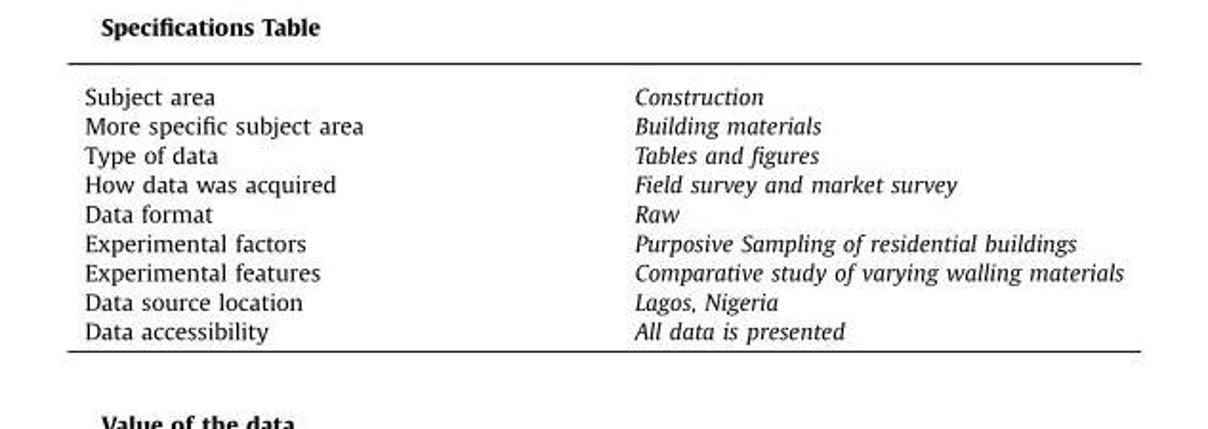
<table><tbody><tr><td>Subject area</td><td>Construction</td></tr><tr><td>More specific subject area</td><td>Building materials</td></tr><tr><td>Type of data</td><td>Tables and figures</td></tr><tr><td>How data was acquired</td><td>Field survey and market survey</td></tr><tr><td>Data format</td><td>Raw</td></tr><tr><td>Experimental factors</td><td>Purposive Sampling of residential buildings</td></tr><tr><td>Experimental features</td><td>Comparative study of varying walling materials</td></tr><tr><td>Data source location</td><td>Lagos, Nigeria</td></tr><tr><td>Data accessibility</td><td>All data is presented</td></tr></tbody></table>